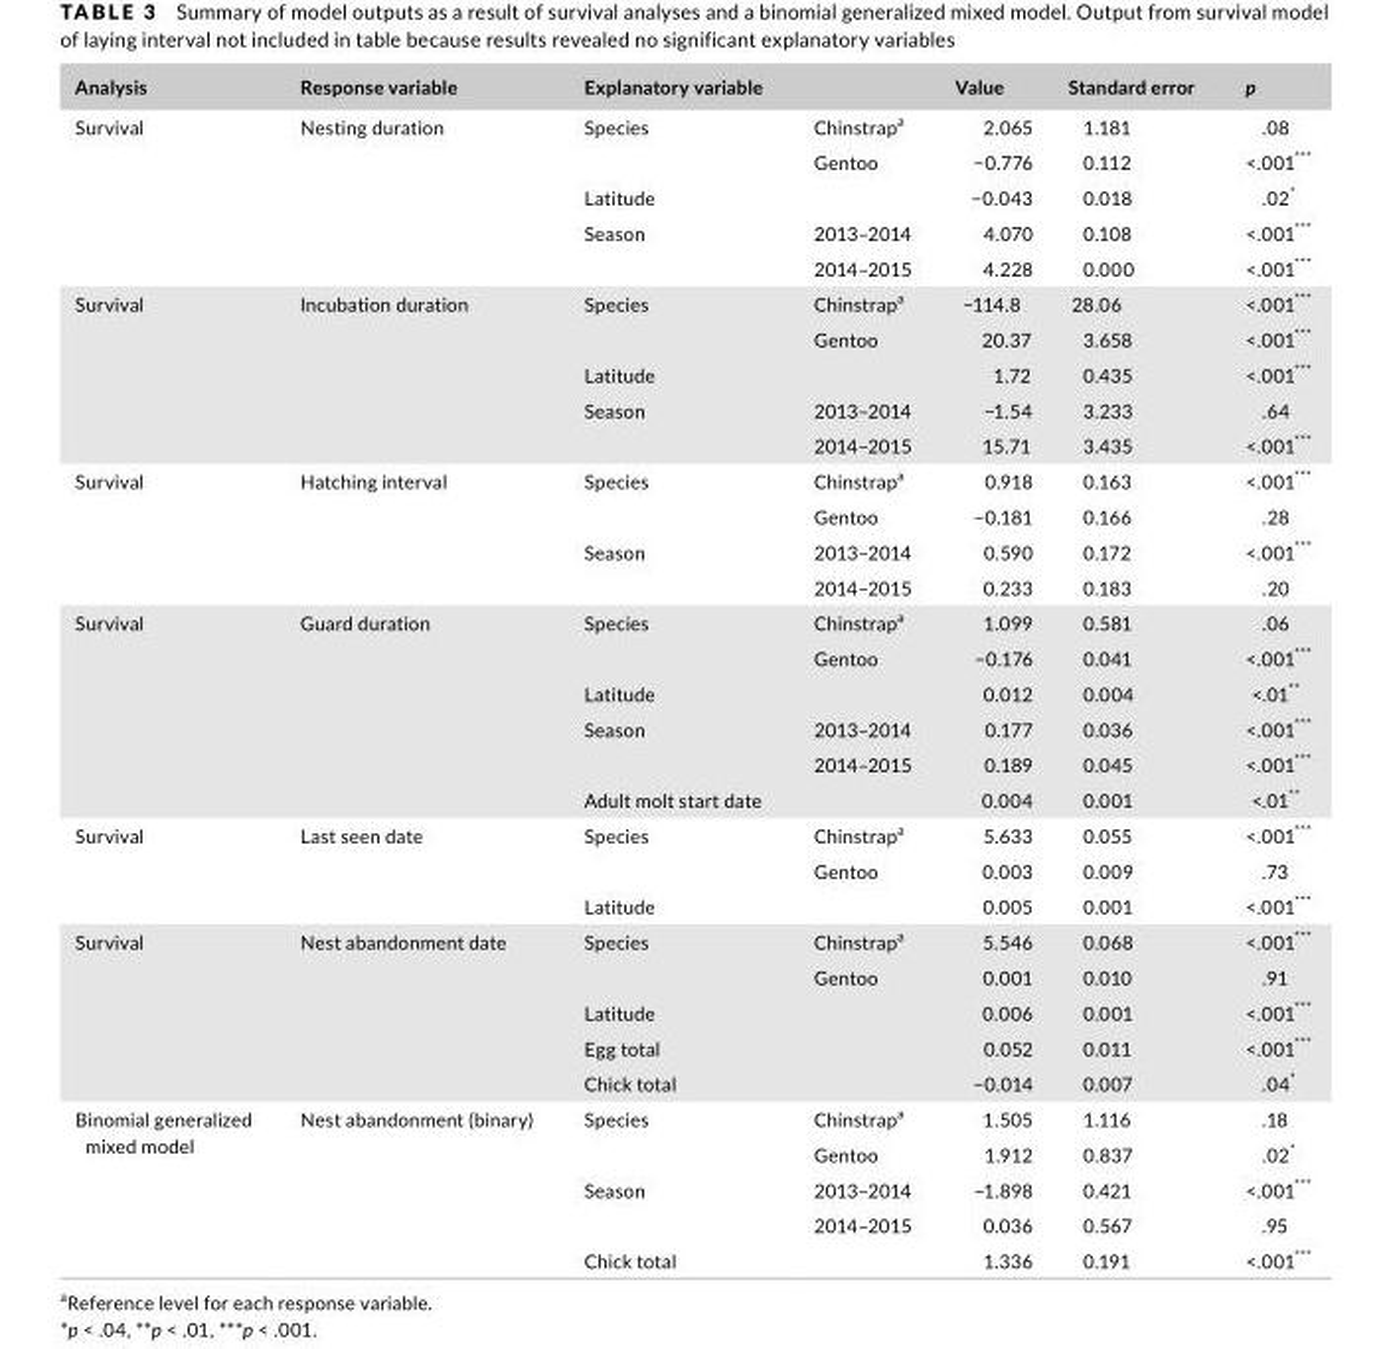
<table><thead><tr><td>Analysis</td><td>Response variable</td><td>Explanatory variable</td><td></td><td>Value</td><td>Standard error</td><td>p</td></tr></thead><tbody><tr><td rowspan="5">Survival</td><td rowspan="5">Nesting duration</td><td rowspan="2">Species</td><td>Chinstrap<sup>a</sup></td><td>2.065</td><td>1.181</td><td>.08</td></tr><tr><td>Gentoo</td><td>−0.776</td><td>0.112</td><td>&lt;.001***</td></tr><tr><td>Latitude</td><td></td><td>−0.043</td><td>0.018</td><td>.02*</td></tr><tr><td rowspan="2">Season</td><td>2013–2014</td><td>4.070</td><td>0.108</td><td>&lt;.001***</td></tr><tr><td>2014–2015</td><td>4.228</td><td>0.000</td><td>&lt;.001***</td></tr><tr><td rowspan="5">Survival</td><td rowspan="5">Incubation duration</td><td rowspan="2">Species</td><td>Chinstrap<sup>a</sup></td><td>−114.8</td><td>28.06</td><td>&lt;.001***</td></tr><tr><td>Gentoo</td><td>20.37</td><td>3.658</td><td>&lt;.001***</td></tr><tr><td>Latitude</td><td></td><td>1.72</td><td>0.435</td><td>&lt;.001***</td></tr><tr><td rowspan="2">Season</td><td>2013–2014</td><td>−1.54</td><td>3.233</td><td>.64</td></tr><tr><td>2014–2015</td><td>15.71</td><td>3.435</td><td>&lt;.001***</td></tr><tr><td rowspan="4">Survival</td><td rowspan="4">Hatching interval</td><td rowspan="2">Species</td><td>Chinstrap<sup>a</sup></td><td>0.918</td><td>0.163</td><td>&lt;.001***</td></tr><tr><td>Gentoo</td><td>−0.181</td><td>0.166</td><td>.28</td></tr><tr><td rowspan="2">Season</td><td>2013–2014</td><td>0.590</td><td>0.172</td><td>&lt;.001***</td></tr><tr><td>2014–2015</td><td>0.233</td><td>0.183</td><td>.20</td></tr><tr><td rowspan="6">Survival</td><td rowspan="6">Guard duration</td><td rowspan="2">Species</td><td>Chinstrap<sup>a</sup></td><td>1.099</td><td>0.581</td><td>.06</td></tr><tr><td>Gentoo</td><td>−0.176</td><td>0.041</td><td>&lt;.001***</td></tr><tr><td>Latitude</td><td></td><td>0.012</td><td>0.004</td><td>&lt;.01**</td></tr><tr><td rowspan="2">Season</td><td>2013–2014</td><td>0.177</td><td>0.036</td><td>&lt;.001***</td></tr><tr><td>2014–2015</td><td>0.189</td><td>0.045</td><td>&lt;.001***</td></tr><tr><td>Adult molt start date</td><td></td><td>0.004</td><td>0.001</td><td>&lt;.01**</td></tr><tr><td rowspan="3">Survival</td><td rowspan="3">Last seen date</td><td rowspan="2">Species</td><td>Chinstrap<sup>a</sup></td><td>5.633</td><td>0.055</td><td>&lt;.001***</td></tr><tr><td>Gentoo</td><td>0.003</td><td>0.009</td><td>.73</td></tr><tr><td>Latitude</td><td></td><td>0.005</td><td>0.001</td><td>&lt;.001***</td></tr><tr><td rowspan="5">Survival</td><td rowspan="5">Nest abandonment date</td><td rowspan="2">Species</td><td>Chinstrap<sup>a</sup></td><td>5.546</td><td>0.068</td><td>&lt;.001***</td></tr><tr><td>Gentoo</td><td>0.001</td><td>0.010</td><td>.91</td></tr><tr><td>Latitude</td><td></td><td>0.006</td><td>0.001</td><td>&lt;.001***</td></tr><tr><td>Egg total</td><td></td><td>0.052</td><td>0.011</td><td>&lt;.001***</td></tr><tr><td>Chick total</td><td></td><td>−0.014</td><td>0.007</td><td>.04*</td></tr><tr><td rowspan="5">Binomial generalized mixed model</td><td rowspan="5">Nest abandonment (binary)</td><td rowspan="2">Species</td><td>Chinstrap<sup>a</sup></td><td>1.505</td><td>1.116</td><td>.18</td></tr><tr><td>Gentoo</td><td>1.912</td><td>0.837</td><td>.02*</td></tr><tr><td rowspan="2">Season</td><td>2013–2014</td><td>−1.898</td><td>0.421</td><td>&lt;.001***</td></tr><tr><td>2014–2015</td><td>0.036</td><td>0.567</td><td>.95</td></tr><tr><td>Chick total</td><td></td><td>1.336</td><td>0.191</td><td>&lt;.001***</td></tr></tbody></table>